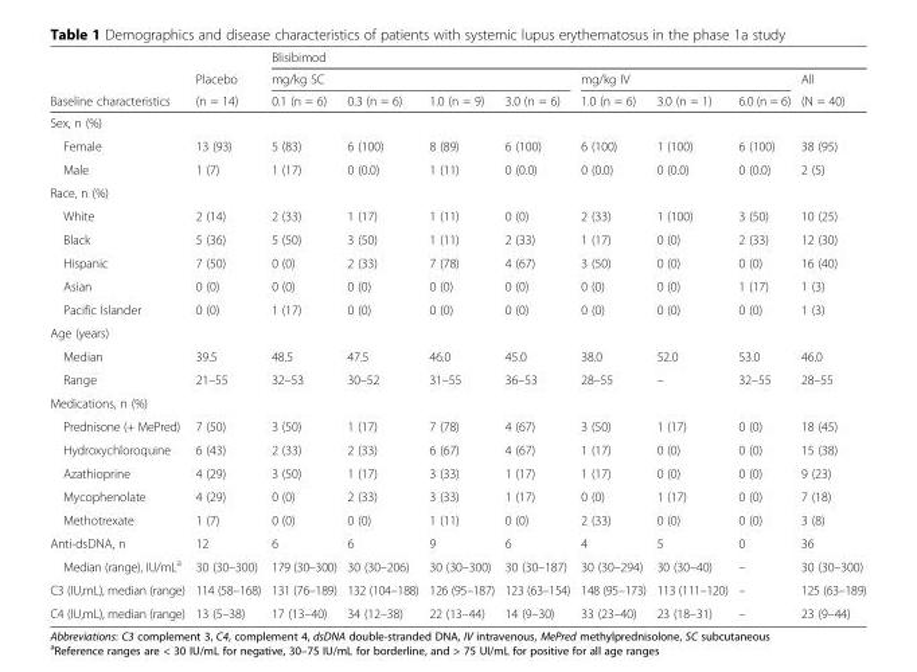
<table><thead><tr><td rowspan="3">Baseline characteristics</td><td rowspan="3">Placebo (n = 14)</td><td colspan="8">Blisibimod</td></tr><tr><td colspan="4">mg/kg SC</td><td colspan="3">mg/kg IV</td><td rowspan="2">All (N = 40)</td></tr><tr><td>0.1 (n = 6)</td><td>0.3 (n = 6)</td><td>1.0 (n = 9)</td><td>3.0 (n = 6)</td><td>1.0 (n = 6)</td><td>3.0 (n = 1)</td><td>6.0 (n = 6)</td></tr></thead><tbody><tr><td colspan="10">Sex, n (%)</td></tr><tr><td>Female</td><td>13 (93)</td><td>5 (83)</td><td>6 (100)</td><td>8 (89)</td><td>6 (100)</td><td>6 (100)</td><td>1 (100)</td><td>6 (100)</td><td>38 (95)</td></tr><tr><td>Male</td><td>1 (7)</td><td>1 (17)</td><td>0 (0.0)</td><td>1 (11)</td><td>0 (0.0)</td><td>0 (0.0)</td><td>0 (0.0)</td><td>0 (0.0)</td><td>2 (5)</td></tr><tr><td colspan="10">Race, n (%)</td></tr><tr><td>White</td><td>2 (14)</td><td>2 (33)</td><td>1 (17)</td><td>1 (11)</td><td>0 (0)</td><td>2 (33)</td><td>1 (100)</td><td>3 (50)</td><td>10 (25)</td></tr><tr><td>Black</td><td>5 (36)</td><td>5 (50)</td><td>3 (50)</td><td>1 (11)</td><td>2 (33)</td><td>1 (17)</td><td>0 (0)</td><td>2 (33)</td><td>12 (30)</td></tr><tr><td>Hispanic</td><td>7 (50)</td><td>0 (0)</td><td>2 (33)</td><td>7 (78)</td><td>4 (67)</td><td>3 (50)</td><td>0 (0)</td><td>0 (0)</td><td>16 (40)</td></tr><tr><td>Asian</td><td>0 (0)</td><td>0 (0)</td><td>0 (0)</td><td>0 (0)</td><td>0 (0)</td><td>0 (0)</td><td>0 (0)</td><td>1 (17)</td><td>1 (3)</td></tr><tr><td>Pacific Islander</td><td>0 (0)</td><td>1 (17)</td><td>0 (0)</td><td>0 (0)</td><td>0 (0)</td><td>0 (0)</td><td>0 (0)</td><td>0 (0)</td><td>1 (3)</td></tr><tr><td colspan="10">Age (years)</td></tr><tr><td>Median</td><td>39.5</td><td>48.5</td><td>47.5</td><td>46.0</td><td>45.0</td><td>38.0</td><td>52.0</td><td>53.0</td><td>46.0</td></tr><tr><td>Range</td><td>21–55</td><td>32–53</td><td>30–52</td><td>31–55</td><td>36–53</td><td>28–55</td><td>–</td><td>32–55</td><td>28–55</td></tr><tr><td colspan="10">Medications, n (%)</td></tr><tr><td>Prednisone (+ MePred)</td><td>7 (50)</td><td>3 (50)</td><td>1 (17)</td><td>7 (78)</td><td>4 (67)</td><td>3 (50)</td><td>1 (17)</td><td>0 (0)</td><td>18 (45)</td></tr><tr><td>Hydroxychloroquine</td><td>6 (43)</td><td>2 (33)</td><td>2 (33)</td><td>6 (67)</td><td>4 (67)</td><td>1 (17)</td><td>0 (0)</td><td>0 (0)</td><td>15 (38)</td></tr><tr><td>Azathioprine</td><td>4 (29)</td><td>3 (50)</td><td>1 (17)</td><td>3 (33)</td><td>1 (17)</td><td>1 (17)</td><td>0 (0)</td><td>0 (0)</td><td>9 (23)</td></tr><tr><td>Mycophenolate</td><td>4 (29)</td><td>0 (0)</td><td>2 (33)</td><td>3 (33)</td><td>1 (17)</td><td>0 (0)</td><td>1 (17)</td><td>0 (0)</td><td>7 (18)</td></tr><tr><td>Methotrexate</td><td>1 (7)</td><td>0 (0)</td><td>0 (0)</td><td>1 (11)</td><td>0 (0)</td><td>2 (33)</td><td>0 (0)</td><td>0 (0)</td><td>3 (8)</td></tr><tr><td>Anti-dsDNA, n</td><td>12</td><td>6</td><td>6</td><td>9</td><td>6</td><td>4</td><td>5</td><td>0</td><td>36</td></tr><tr><td>Median (range), IU/mL<sup>a</sup></td><td>30 (30–300)</td><td>179 (30–300)</td><td>30 (30–206)</td><td>30 (30–300)</td><td>30 (30–187)</td><td>30 (30–294)</td><td>30 (30–40)</td><td>–</td><td>30 (30–300)</td></tr><tr><td>C3 (IU,mL), median (range)</td><td>114 (58–168)</td><td>131 (76–189)</td><td>132 (104–188)</td><td>126 (95–187)</td><td>123 (63–154)</td><td>148 (95–173)</td><td>113 (111–120)</td><td>–</td><td>125 (63–189)</td></tr><tr><td>C4 (IU,mL), median (range)</td><td>13 (5–38)</td><td>17 (13–40)</td><td>34 (12–38)</td><td>22 (13–44)</td><td>14 (9–30)</td><td>33 (23–40)</td><td>23 (18–31)</td><td>–</td><td>23 (9–44)</td></tr></tbody></table>